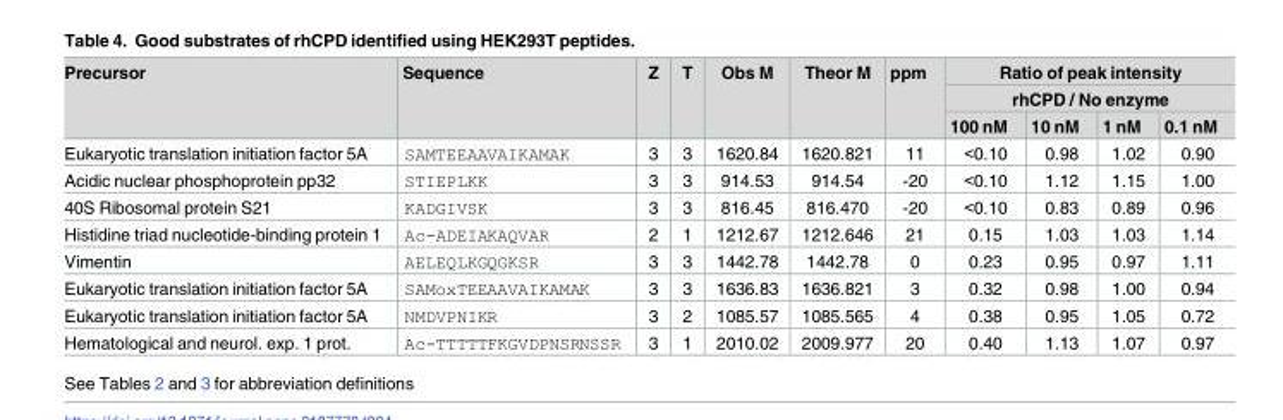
<table><thead><tr><td rowspan="3">Precursor</td><td rowspan="3">Sequence</td><td rowspan="3">Z</td><td rowspan="3">T</td><td rowspan="3">Obs M</td><td rowspan="3">Theor M</td><td rowspan="3">ppm</td><td rowspan="2" colspan="4">Ratio of peak intensity rhCPD / No enzyme</td></tr><tr></tr><tr><td>100 nM</td><td>10 nM</td><td>1 nM</td><td>0.1 nM</td></tr></thead><tbody><tr><td>Eukaryotic translation initiation factor 5A</td><td>SAMTEEAAVAIKAMAK</td><td>3</td><td>3</td><td>1620.84</td><td>1620.821</td><td>11</td><td>&lt;0.10</td><td>0.98</td><td>1.02</td><td>0.90</td></tr><tr><td>Acidic nuclear phosphoprotein pp32</td><td>STIEPLKK</td><td>3</td><td>3</td><td>914.53</td><td>914.54</td><td>-20</td><td>&lt;0.10</td><td>1.12</td><td>1.15</td><td>1.00</td></tr><tr><td>40S Ribosomal protein S21</td><td>KADGIVSK</td><td>3</td><td>3</td><td>816.45</td><td>816.470</td><td>-20</td><td>&lt;0.10</td><td>0.83</td><td>0.89</td><td>0.96</td></tr><tr><td>Histidine triad nucleotide-binding protein 1</td><td>Ac-ADEIAKAQVAR</td><td>2</td><td>1</td><td>1212.67</td><td>1212.646</td><td>21</td><td>0.15</td><td>1.03</td><td>1.03</td><td>1.14</td></tr><tr><td>Vimentin</td><td>AELEQLKGQGKSR</td><td>3</td><td>3</td><td>1442.78</td><td>1442.78</td><td>0</td><td>0.23</td><td>0.95</td><td>0.97</td><td>1.11</td></tr><tr><td>Eukaryotic translation initiation factor 5A</td><td>SAMoxTEEAAVAIKAMAK</td><td>3</td><td>3</td><td>1636.83</td><td>1636.821</td><td>3</td><td>0.32</td><td>0.98</td><td>1.00</td><td>0.94</td></tr><tr><td>Eukaryotic translation initiation factor 5A</td><td>NMDVPNIKR</td><td>3</td><td>2</td><td>1085.57</td><td>1085.565</td><td>4</td><td>0.38</td><td>0.95</td><td>1.05</td><td>0.72</td></tr><tr><td>Hematological and neurol. exp. 1 prot.</td><td>Ac-TTTTTFKGVDPNSRNSSR</td><td>3</td><td>1</td><td>2010.02</td><td>2009.977</td><td>20</td><td>0.40</td><td>1.13</td><td>1.07</td><td>0.97</td></tr></tbody></table>